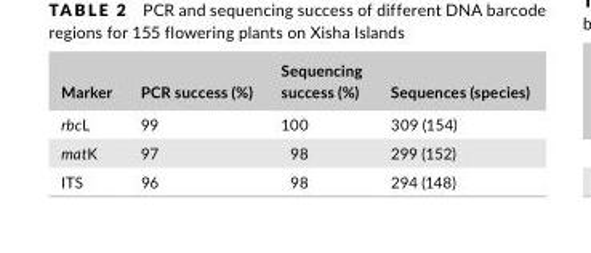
<table><thead><tr><td>Marker</td><td>PCR success (%)</td><td>Sequencing success (%)</td><td>Sequences (species)</td></tr></thead><tbody><tr><td>rbcL</td><td>99</td><td>100</td><td>309 (154)</td></tr><tr><td>matK</td><td>97</td><td>98</td><td>299 (152)</td></tr><tr><td>ITS</td><td>96</td><td>98</td><td>294 (148)</td></tr></tbody></table>